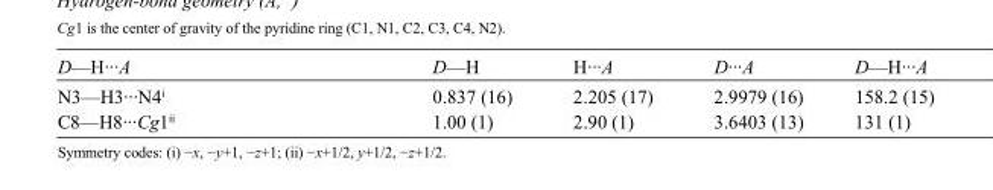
<table><tbody><tr><td>D—H···A</td><td>D—H</td><td>H···A</td><td>D···A</td><td>D—H···A</td></tr><tr><td>N3—H3···N4<sup>i</sup></td><td>0.837 (16)</td><td>2.205 (17)</td><td>2.9979 (16)</td><td>158.2 (15)</td></tr><tr><td>C8—H8···Cg1<sup>ii</sup></td><td>1.00 (1)</td><td>2.90 (1)</td><td>3.6403 (13)</td><td>131 (1)</td></tr></tbody></table>